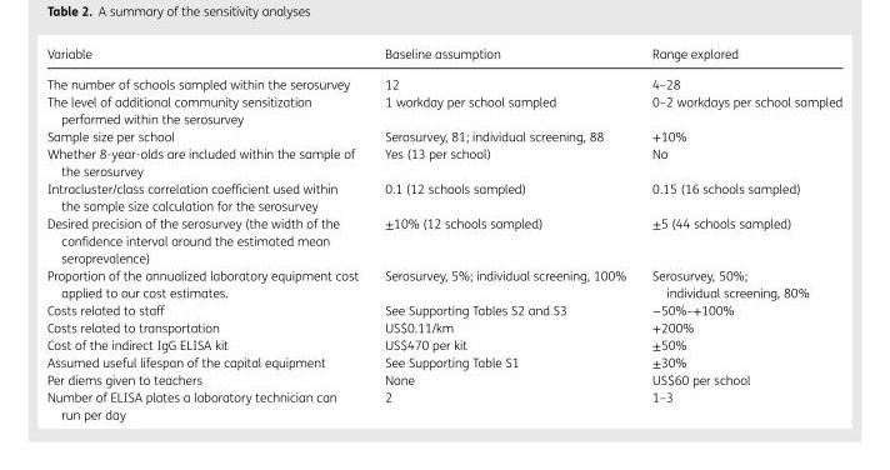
<table><thead><tr><td>Variable</td><td>Baseline assumption</td><td>Range explored</td></tr></thead><tbody><tr><td>The number of schools sampled within the serosurvey</td><td>12</td><td>4–28</td></tr><tr><td>The level of additional community sensitization performed within the serosurvey</td><td>1 workday per school sampled</td><td>0–2 workdays per school sampled</td></tr><tr><td>Sample size per school</td><td>Serosurvey, 81; individual screening, 88</td><td>+10%</td></tr><tr><td>Whether 8-year-olds are included within the sample of the serosurvey</td><td>Yes (13 per school)</td><td>No</td></tr><tr><td>Intracluster/class correlation coefficient used within the sample size calculation for the serosurvey</td><td>0.1 (12 schools sampled)</td><td>0.15 (16 schools sampled)</td></tr><tr><td>Desired precision of the serosurvey (the width of the confidence interval around the estimated mean seroprevalence)</td><td>±10% (12 schools sampled)</td><td>±5 (44 schools sampled)</td></tr><tr><td>Proportion of the annualized laboratory equipment cost applied to our cost estimates.</td><td>Serosurvey, 5%; individual screening, 100%</td><td>Serosurvey, 50%; individual screening, 80%</td></tr><tr><td>Costs related to staff</td><td>See Supporting Tables S2 and S3</td><td>−50%–+100%</td></tr><tr><td>Costs related to transportation</td><td>US$0.11/km</td><td>+200%</td></tr><tr><td>Cost of the indirect IgG ELISA kit</td><td>US$470 per kit</td><td>±50%</td></tr><tr><td>Assumed useful lifespan of the capital equipment</td><td>See Supporting Table S1</td><td>±30%</td></tr><tr><td>Per diems given to teachers</td><td>None</td><td>US$60 per school</td></tr><tr><td>Number of ELISA plates a laboratory technician can run per day</td><td>2</td><td>1–3</td></tr></tbody></table>